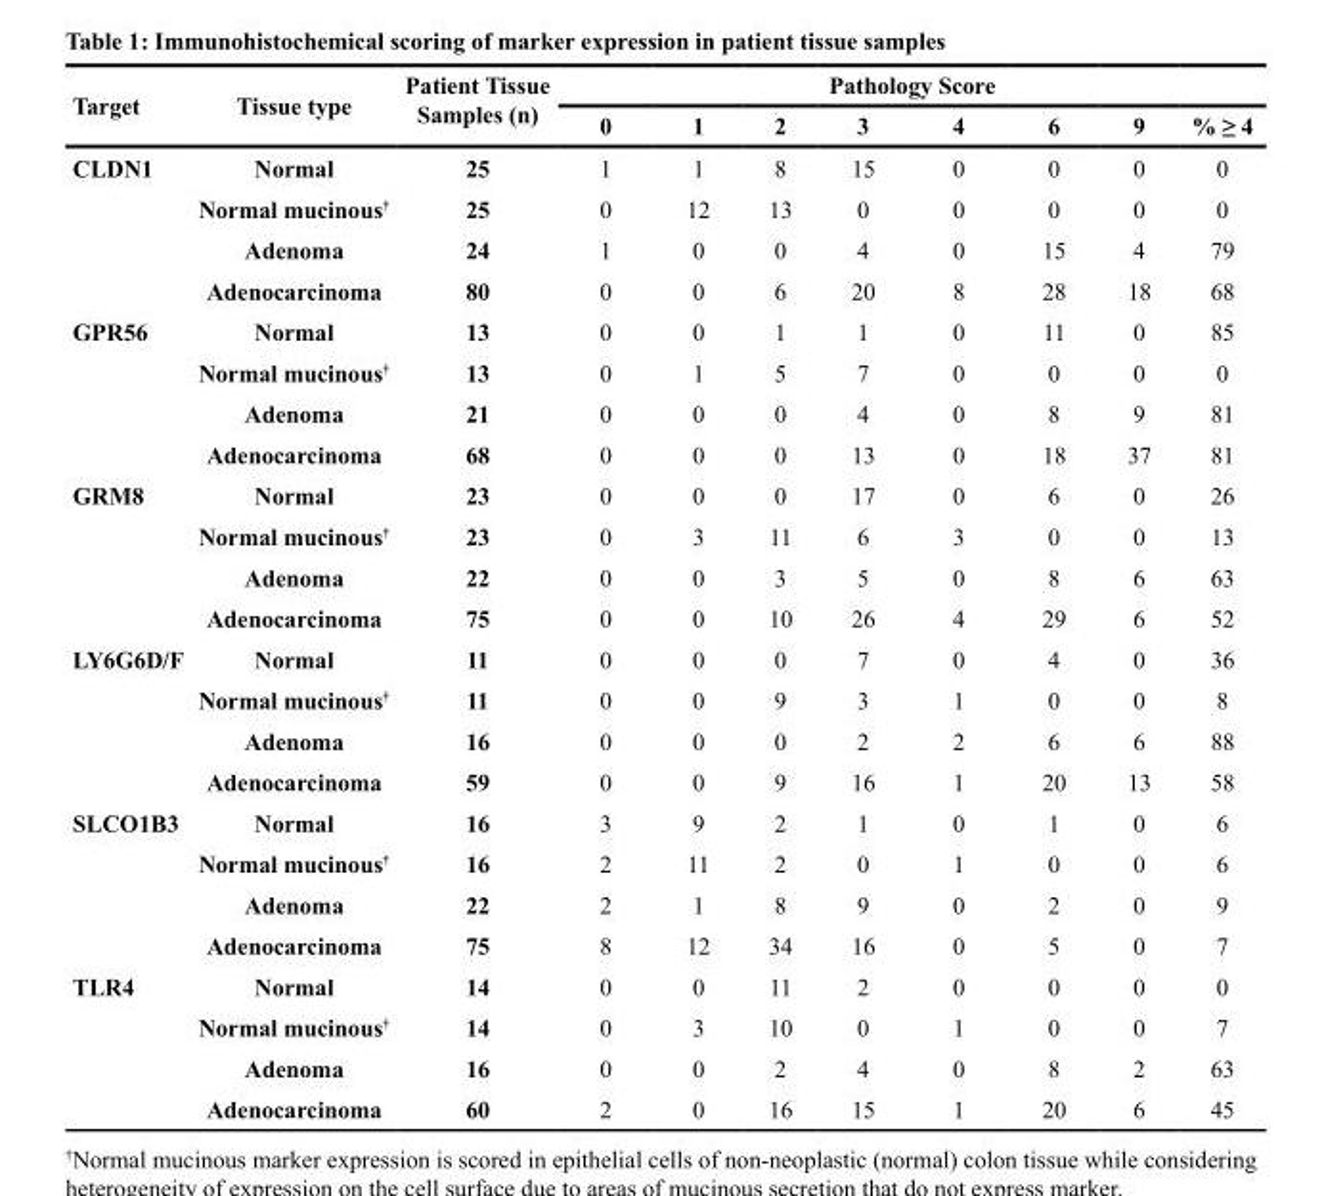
<table><thead><tr><td rowspan="2">Target</td><td rowspan="2">Tissue type</td><td rowspan="2">Patient Tissue Samples (n)</td><td colspan="8">Pathology Score</td></tr><tr><td>0</td><td>1</td><td>2</td><td>3</td><td>4</td><td>6</td><td>9</td><td>% ≥ 4</td></tr></thead><tbody><tr><td rowspan="4">CLDN1</td><td>Normal</td><td>25</td><td>1</td><td>1</td><td>8</td><td>15</td><td>0</td><td>0</td><td>0</td><td>0</td></tr><tr><td>Normal mucinous<sup>†</sup></td><td>25</td><td>0</td><td>12</td><td>13</td><td>0</td><td>0</td><td>0</td><td>0</td><td>0</td></tr><tr><td>Adenoma</td><td>24</td><td>1</td><td>0</td><td>0</td><td>4</td><td>0</td><td>15</td><td>4</td><td>79</td></tr><tr><td>Adenocarcinoma</td><td>80</td><td>0</td><td>0</td><td>6</td><td>20</td><td>8</td><td>28</td><td>18</td><td>68</td></tr><tr><td rowspan="4">GPR56</td><td>Normal</td><td>13</td><td>0</td><td>0</td><td>1</td><td>1</td><td>0</td><td>11</td><td>0</td><td>85</td></tr><tr><td>Normal mucinous<sup>†</sup></td><td>13</td><td>0</td><td>1</td><td>5</td><td>7</td><td>0</td><td>0</td><td>0</td><td>0</td></tr><tr><td>Adenoma</td><td>21</td><td>0</td><td>0</td><td>0</td><td>4</td><td>0</td><td>8</td><td>9</td><td>81</td></tr><tr><td>Adenocarcinoma</td><td>68</td><td>0</td><td>0</td><td>0</td><td>13</td><td>0</td><td>18</td><td>37</td><td>81</td></tr><tr><td rowspan="4">GRM8</td><td>Normal</td><td>23</td><td>0</td><td>0</td><td>0</td><td>17</td><td>0</td><td>6</td><td>0</td><td>26</td></tr><tr><td>Normal mucinous<sup>†</sup></td><td>23</td><td>0</td><td>3</td><td>11</td><td>6</td><td>3</td><td>0</td><td>0</td><td>13</td></tr><tr><td>Adenoma</td><td>22</td><td>0</td><td>0</td><td>3</td><td>5</td><td>0</td><td>8</td><td>6</td><td>63</td></tr><tr><td>Adenocarcinoma</td><td>75</td><td>0</td><td>0</td><td>10</td><td>26</td><td>4</td><td>29</td><td>6</td><td>52</td></tr><tr><td rowspan="4">LY6G6D/F</td><td>Normal</td><td>11</td><td>0</td><td>0</td><td>0</td><td>7</td><td>0</td><td>4</td><td>0</td><td>36</td></tr><tr><td>Normal mucinous<sup>†</sup></td><td>11</td><td>0</td><td>0</td><td>9</td><td>3</td><td>1</td><td>0</td><td>0</td><td>8</td></tr><tr><td>Adenoma</td><td>16</td><td>0</td><td>0</td><td>0</td><td>2</td><td>2</td><td>6</td><td>6</td><td>88</td></tr><tr><td>Adenocarcinoma</td><td>59</td><td>0</td><td>0</td><td>9</td><td>16</td><td>1</td><td>20</td><td>13</td><td>58</td></tr><tr><td rowspan="4">SLCO1B3</td><td>Normal</td><td>16</td><td>3</td><td>9</td><td>2</td><td>1</td><td>0</td><td>1</td><td>0</td><td>6</td></tr><tr><td>Normal mucinous<sup>†</sup></td><td>16</td><td>2</td><td>11</td><td>2</td><td>0</td><td>1</td><td>0</td><td>0</td><td>6</td></tr><tr><td>Adenoma</td><td>22</td><td>2</td><td>1</td><td>8</td><td>9</td><td>0</td><td>2</td><td>0</td><td>9</td></tr><tr><td>Adenocarcinoma</td><td>75</td><td>8</td><td>12</td><td>34</td><td>16</td><td>0</td><td>5</td><td>0</td><td>7</td></tr><tr><td rowspan="4">TLR4</td><td>Normal</td><td>14</td><td>0</td><td>0</td><td>11</td><td>2</td><td>0</td><td>0</td><td>0</td><td>0</td></tr><tr><td>Normal mucinous<sup>†</sup></td><td>14</td><td>0</td><td>3</td><td>10</td><td>0</td><td>1</td><td>0</td><td>0</td><td>7</td></tr><tr><td>Adenoma</td><td>16</td><td>0</td><td>0</td><td>2</td><td>4</td><td>0</td><td>8</td><td>2</td><td>63</td></tr><tr><td>Adenocarcinoma</td><td>60</td><td>2</td><td>0</td><td>16</td><td>15</td><td>1</td><td>20</td><td>6</td><td>45</td></tr></tbody></table>